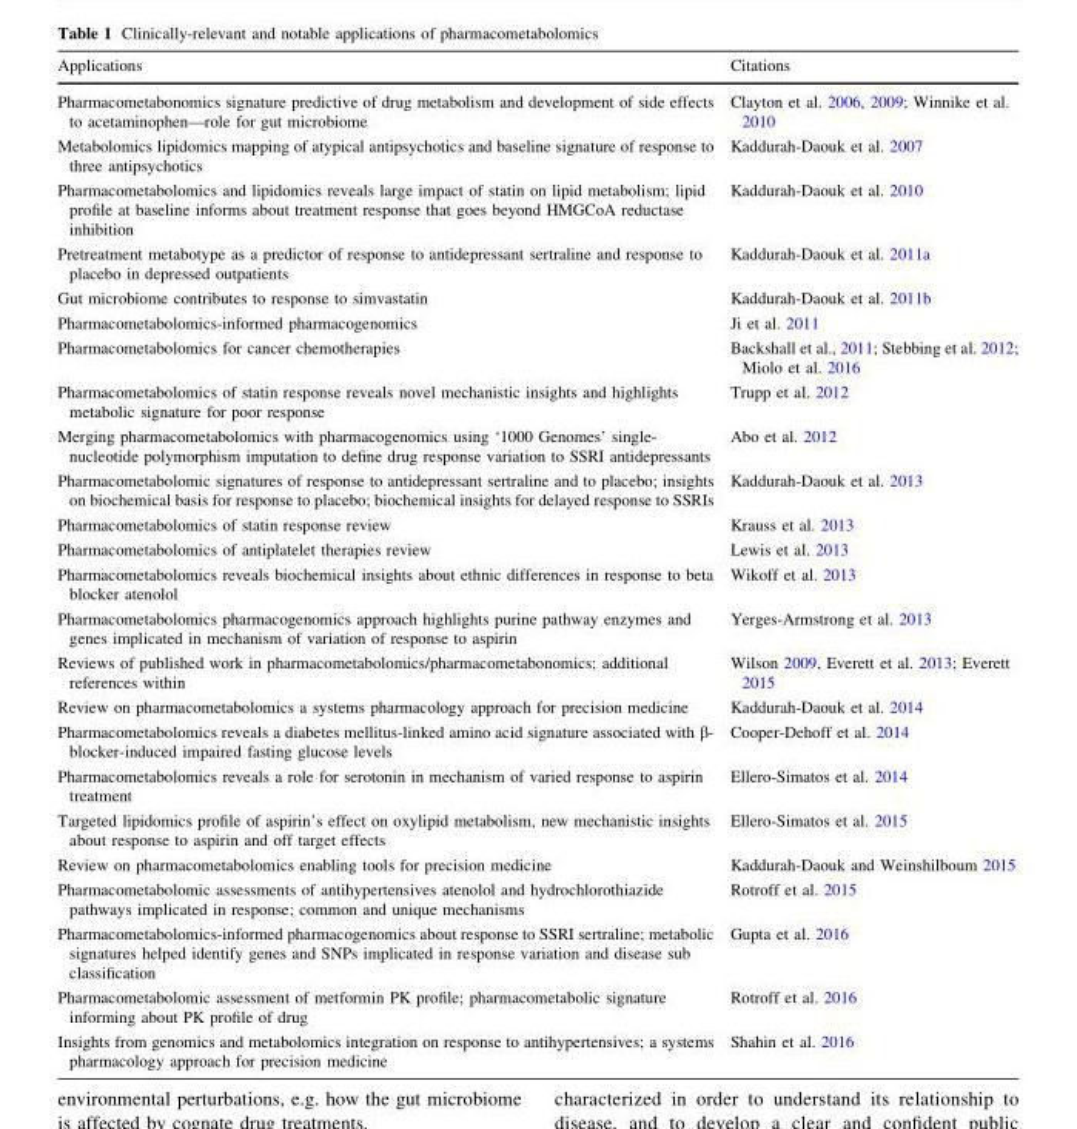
<table><thead><tr><td>Applications</td><td>Citations</td></tr></thead><tbody><tr><td>Pharmacometabonomics signature predictive of drug metabolism and development of side effects to acetaminophen—role for gut microbiome</td><td>Clayton et al. 2006, 2009; Winnike et al. 2010</td></tr><tr><td>Metabolomics lipidomics mapping of atypical antipsychotics and baseline signature of response to three antipsychotics</td><td>Kaddurah-Daouk et al. 2007</td></tr><tr><td>Pharmacometabolomics and lipidomics reveals large impact of statin on lipid metabolism; lipid profile at baseline informs about treatment response that goes beyond HMGCoA reductase inhibition</td><td>Kaddurah-Daouk et al. 2010</td></tr><tr><td>Pretreatment metabotype as a predictor of response to antidepressant sertraline and response to placebo in depressed outpatients</td><td>Kaddurah-Daouk et al. 2011a</td></tr><tr><td>Gut microbiome contributes to response to simvastatin</td><td>Kaddurah-Daouk et al. 2011b</td></tr><tr><td>Pharmacometabolomics-informed pharmacogenomics</td><td>Ji et al. 2011</td></tr><tr><td>Pharmacometabolomics for cancer chemotherapies</td><td>Backshall et al., 2011; Stebbing et al. 2012; Miolo et al. 2016</td></tr><tr><td>Pharmacometabolomics of statin response reveals novel mechanistic insights and highlights metabolic signature for poor response</td><td>Trupp et al. 2012</td></tr><tr><td>Merging pharmacometabolomics with pharmacogenomics using ‘1000 Genomes’ single- nucleotide polymorphism imputation to define drug response variation to SSRI antidepressants</td><td>Abo et al. 2012</td></tr><tr><td>Pharmacometabolomic signatures of response to antidepressant sertraline and to placebo; insights on biochemical basis for response to placebo; biochemical insights for delayed response to SSRIs</td><td>Kaddurah-Daouk et al. 2013</td></tr><tr><td>Pharmacometabolomics of statin response review</td><td>Krauss et al. 2013</td></tr><tr><td>Pharmacometabolomics of antiplatelet therapies review</td><td>Lewis et al. 2013</td></tr><tr><td>Pharmacometabolomics reveals biochemical insights about ethnic differences in response to beta blocker atenolol</td><td>Wikoff et al. 2013</td></tr><tr><td>Pharmacometabolomics pharmacogenomics approach highlights purine pathway enzymes and genes implicated in mechanism of variation of response to aspirin</td><td>Yerges-Armstrong et al. 2013</td></tr><tr><td>Reviews of published work in pharmacometabolomics/pharmacometabonomics; additional references within</td><td>Wilson 2009, Everett et al. 2013; Everett 2015</td></tr><tr><td>Review on pharmacometabolomics a systems pharmacology approach for precision medicine</td><td>Kaddurah-Daouk et al. 2014</td></tr><tr><td>Pharmacometabolomics reveals a diabetes mellitus-linked amino acid signature associated with β- blocker-induced impaired fasting glucose levels</td><td>Cooper-Dehoff et al. 2014</td></tr><tr><td>Pharmacometabolomics reveals a role for serotonin in mechanism of varied response to aspirin treatment</td><td>Ellero-Simatos et al. 2014</td></tr><tr><td>Targeted lipidomics profile of aspirin’s effect on oxylipid metabolism, new mechanistic insights about response to aspirin and off target effects</td><td>Ellero-Simatos et al. 2015</td></tr><tr><td>Review on pharmacometabolomics enabling tools for precision medicine</td><td>Kaddurah-Daouk and Weinshilboum 2015</td></tr><tr><td>Pharmacometabolomic assessments of antihypertensives atenolol and hydrochlorothiazide pathways implicated in response; common and unique mechanisms</td><td>Rotroff et al. 2015</td></tr><tr><td>Pharmacometabolomics-informed pharmacogenomics about response to SSRI sertraline; metabolic signatures helped identify genes and SNPs implicated in response variation and disease sub classification</td><td>Gupta et al. 2016</td></tr><tr><td>Pharmacometabolomic assessment of metformin PK profile; pharmacometabolic signature informing about PK profile of drug</td><td>Rotroff et al. 2016</td></tr><tr><td>Insights from genomics and metabolomics integration on response to antihypertensives; a systems pharmacology approach for precision medicine</td><td>Shahin et al. 2016</td></tr></tbody></table>